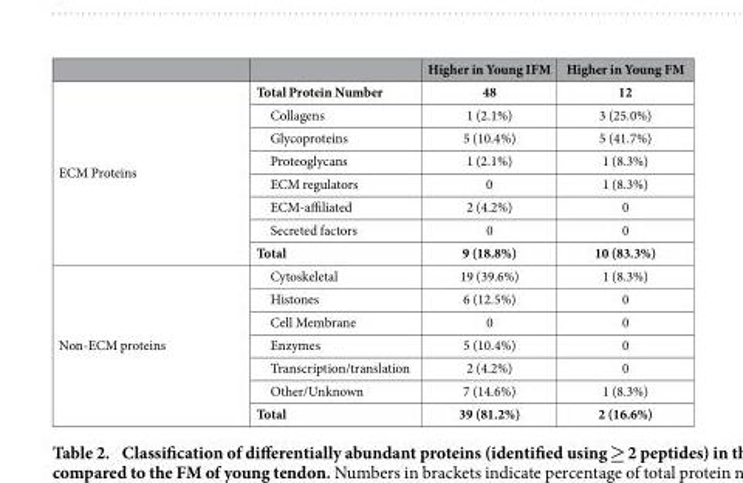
<table><thead><tr><td></td><td></td><td>Higher in Young IFM</td><td>Higher in Young FM</td></tr></thead><tbody><tr><td rowspan="8">ECM Proteins</td><td>Total Protein Number</td><td>48</td><td>12</td></tr><tr><td>Collagens</td><td>1 (2.1%)</td><td>3 (25.0%)</td></tr><tr><td>Glycoproteins</td><td>5 (10.4%)</td><td>5 (41.7%)</td></tr><tr><td>Proteoglycans</td><td>1 (2.1%)</td><td>1 (8.3%)</td></tr><tr><td>ECM regulators</td><td>0</td><td>1 (8.3%)</td></tr><tr><td>ECM-affiliated</td><td>2 (4.2%)</td><td>0</td></tr><tr><td>Secreted factors</td><td>0</td><td>0</td></tr><tr><td>Total</td><td>9 (18.8%)</td><td>10 (83.3%)</td></tr><tr><td rowspan="7">Non-ECM proteins</td><td>Cytoskeletal</td><td>19 (39.6%)</td><td>1 (8.3%)</td></tr><tr><td>Histones</td><td>6 (12.5%)</td><td>0</td></tr><tr><td>Cell Membrane</td><td>0</td><td>0</td></tr><tr><td>Enzymes</td><td>5 (10.4%)</td><td>0</td></tr><tr><td>Transcription/translation</td><td>2 (4.2%)</td><td>0</td></tr><tr><td>Other/Unknown</td><td>7 (14.6%)</td><td>1 (8.3%)</td></tr><tr><td>Total</td><td>39 (81.2%)</td><td>2 (16.6%)</td></tr></tbody></table>